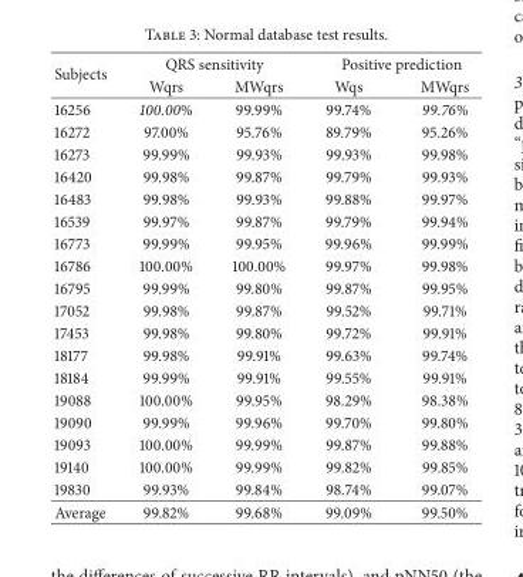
<table><thead><tr><td rowspan="2">Subjects</td><td colspan="2">QRS sensitivity</td><td colspan="2">Positive prediction</td></tr><tr><td>Wqrs</td><td>MWqrs</td><td>Wqs</td><td>MWqrs</td></tr></thead><tbody><tr><td>16256</td><td>100.00%</td><td>99.99%</td><td>99.74%</td><td>99.76%</td></tr><tr><td>16272</td><td>97.00%</td><td>95.76%</td><td>89.79%</td><td>95.26%</td></tr><tr><td>16273</td><td>99.99%</td><td>99.93%</td><td>99.93%</td><td>99.98%</td></tr><tr><td>16420</td><td>99.98%</td><td>99.87%</td><td>99.79%</td><td>99.93%</td></tr><tr><td>16483</td><td>99.98%</td><td>99.93%</td><td>99.88%</td><td>99.97%</td></tr><tr><td>16539</td><td>99.97%</td><td>99.87%</td><td>99.79%</td><td>99.94%</td></tr><tr><td>16773</td><td>99.99%</td><td>99.95%</td><td>99.96%</td><td>99.99%</td></tr><tr><td>16786</td><td>100.00%</td><td>100.00%</td><td>99.97%</td><td>99.98%</td></tr><tr><td>16795</td><td>99.99%</td><td>99.80%</td><td>99.87%</td><td>99.95%</td></tr><tr><td>17052</td><td>99.98%</td><td>99.87%</td><td>99.52%</td><td>99.71%</td></tr><tr><td>17453</td><td>99.98%</td><td>99.80%</td><td>99.72%</td><td>99.91%</td></tr><tr><td>18177</td><td>99.98%</td><td>99.91%</td><td>99.63%</td><td>99.74%</td></tr><tr><td>18184</td><td>99.99%</td><td>99.91%</td><td>99.55%</td><td>99.91%</td></tr><tr><td>19088</td><td>100.00%</td><td>99.95%</td><td>98.29%</td><td>98.38%</td></tr><tr><td>19090</td><td>99.99%</td><td>99.96%</td><td>99.70%</td><td>99.80%</td></tr><tr><td>19093</td><td>100.00%</td><td>99.99%</td><td>99.87%</td><td>99.88%</td></tr><tr><td>19140</td><td>100.00%</td><td>99.99%</td><td>99.82%</td><td>99.85%</td></tr><tr><td>19830</td><td>99.93%</td><td>99.84%</td><td>98.74%</td><td>99.07%</td></tr><tr><td>Average</td><td>99.82%</td><td>99.68%</td><td>99.09%</td><td>99.50%</td></tr></tbody></table>